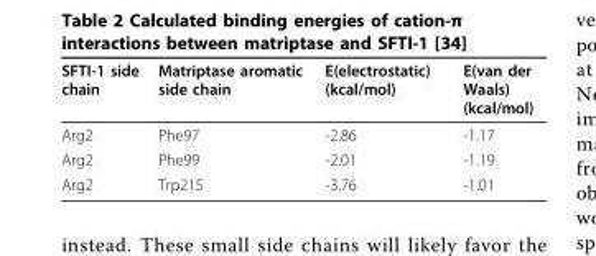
<table><thead><tr><td>SFTI-1 side chain</td><td>Matriptase aromatic side chain</td><td>E(electrostatic) (kcal/mol)</td><td>E(van der Waals) (kcal/mol)</td></tr></thead><tbody><tr><td>Arg2</td><td>Phe97</td><td>-2.86</td><td>-1.17</td></tr><tr><td>Arg2</td><td>Phe99</td><td>-2.01</td><td>-1.19</td></tr><tr><td>Arg2</td><td>Trp215</td><td>-3.76</td><td>-1.01</td></tr></tbody></table>